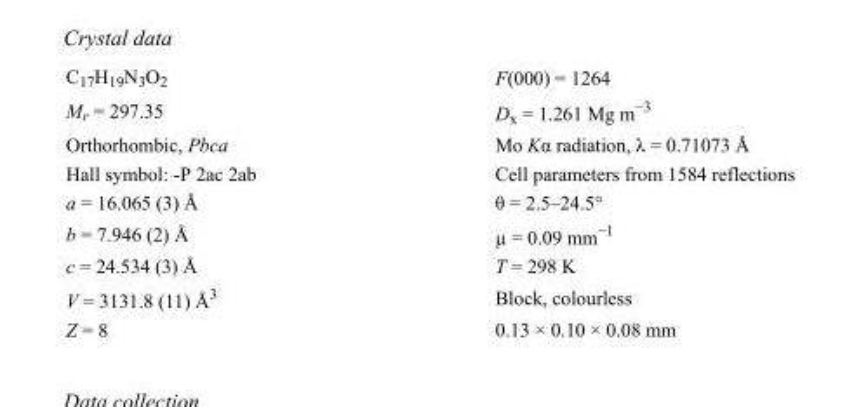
<table><tbody><tr><td>C<sub>17</sub>H<sub>19</sub>N<sub>3</sub>O<sub>2</sub></td><td>F(000) = 1264</td></tr><tr><td>M<sub>r</sub> = 297.35</td><td>D<sub>x</sub> = 1.261 Mg m<sup>−3</sup></td></tr><tr><td>Orthorhombic, Pbca</td><td>Mo Kα radiation, λ = 0.71073 Å</td></tr><tr><td>Hall symbol: -P 2ac 2ab</td><td>Cell parameters from 1584 reflections</td></tr><tr><td>a = 16.065 (3) Å</td><td>θ = 2.5–24.5°</td></tr><tr><td>b = 7.946 (2) Å</td><td>µ = 0.09 mm<sup>−1</sup></td></tr><tr><td>c = 24.534 (3) Å</td><td>T = 298 K</td></tr><tr><td>V = 3131.8 (11) Å<sup>3</sup></td><td>Block, colourless</td></tr><tr><td>Z = 8</td><td>0.13 × 0.10 × 0.08 mm</td></tr></tbody></table>